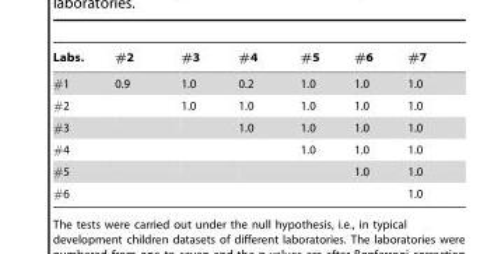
<table><thead><tr><td>Labs.</td><td>#2</td><td>#3</td><td>#4</td><td>#5</td><td>#6</td><td>#7</td></tr></thead><tbody><tr><td>#1</td><td>0.9</td><td>1.0</td><td>0.2</td><td>1.0</td><td>1.0</td><td>1.0</td></tr><tr><td>#2</td><td></td><td>1.0</td><td>1.0</td><td>1.0</td><td>1.0</td><td>1.0</td></tr><tr><td>#3</td><td></td><td></td><td>1.0</td><td>1.0</td><td>1.0</td><td>1.0</td></tr><tr><td>#4</td><td></td><td></td><td></td><td>1.0</td><td>1.0</td><td>1.0</td></tr><tr><td>#5</td><td></td><td></td><td></td><td></td><td>1.0</td><td>1.0</td></tr><tr><td>#6</td><td></td><td></td><td></td><td></td><td></td><td>1.0</td></tr></tbody></table>